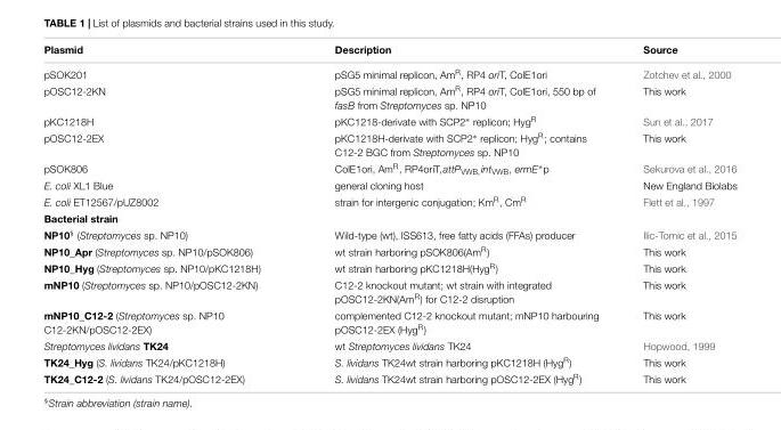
<table><thead><tr><td>Plasmid</td><td>Description</td><td>Source</td></tr></thead><tbody><tr><td>pSOK201</td><td>pSG5 minimal replicon, Am<sup>R</sup>, RP4 oriT, ColE1ori</td><td>Zotchev et al., 2000</td></tr><tr><td>pOSC12-2KN</td><td>pSG5 minimal replicon, Am<sup>R</sup>, RP4 oriT, ColE1ori, 550 bp of fasB from Streptomyces sp. NP10</td><td>This work</td></tr><tr><td>pKC1218H</td><td>pKC1218-derivate with SCP2∗ replicon; Hyg<sup>R</sup></td><td>Sun et al., 2017</td></tr><tr><td>pOSC12-2EX</td><td>pKC1218H-derivate with SCP2∗ replicon; Hyg<sup>R</sup>; contains C12-2 BGC from Streptomyces sp. NP10</td><td>This work</td></tr><tr><td>pSOK806</td><td>ColE1ori, Am<sup>R</sup>, RP4oriT,attP<sub>VWB,</sub>int<sub>VWB</sub>, ermE∗p</td><td>Sekurova et al., 2016</td></tr><tr><td>E. coli XL1 Blue</td><td>general cloning host</td><td>New England Biolabs</td></tr><tr><td>E. coli ET12567/pUZ8002</td><td>strain for intergenic conjugation; Km<sup>R</sup>, Cm<sup>R</sup></td><td>Flett et al., 1997</td></tr><tr><td colspan="3">Bacterial strain</td></tr><tr><td>NP10<sup>§</sup> (Streptomyces sp. NP10)</td><td>Wild-type (wt), ISS613, free fatty acids (FFAs) producer</td><td>Ilic-Tomic et al., 2015</td></tr><tr><td>NP10_Apr (Streptomyces sp. NP10/pSOK806)</td><td>wt strain harboring pSOK806(Am<sup>R</sup>)</td><td>This work</td></tr><tr><td>NP10_Hyg (Streptomyces sp. NP10/pKC1218H)</td><td>wt strain harboring pKC1218H(Hyg<sup>R</sup>)</td><td>This work</td></tr><tr><td>mNP10 (Streptomyces sp. NP10/pOSC12-2KN)</td><td>C12-2 knockout mutant; wt strain with integrated pOSC12-2KN(Am<sup>R</sup>) for C12-2 disruption</td><td>This work</td></tr><tr><td>mNP10_C12-2 (Streptomyces sp. NP10 C12-2KN/pOSC12-2EX)</td><td>complemented C12-2 knockout mutant; mNP10 harbouring pOSC12-2EX (Hyg<sup>R</sup>)</td><td>This work</td></tr><tr><td>Streptomyces lividans TK24</td><td>wt Streptomyces lividans TK24</td><td>Hopwood, 1999</td></tr><tr><td>TK24_Hyg (S. lividans TK24/pKC1218H)</td><td>S. lividans TK24wt strain harboring pKC1218H (Hyg<sup>R</sup>)</td><td>This work</td></tr><tr><td>TK24_C12-2 (S. lividans TK24/pOSC12-2EX)</td><td>S. lividans TK24wt strain harboring pOSC12-2EX (Hyg<sup>R</sup>)</td><td>This work</td></tr></tbody></table>